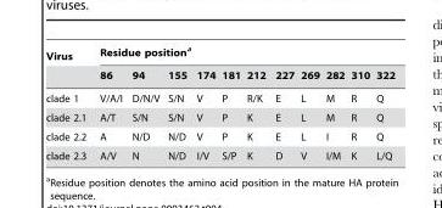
<table><thead><tr><td rowspan="2">Virus</td><td colspan="11">Residue position<sup>a</sup></td></tr><tr><td>86</td><td>94</td><td>155</td><td>174</td><td>181</td><td>212</td><td>227</td><td>269</td><td>282</td><td>310</td><td>322</td></tr></thead><tbody><tr><td>clade 1</td><td>V/A/I</td><td>D/N/V</td><td>S/N</td><td>V</td><td>P</td><td>R/K</td><td>E</td><td>L</td><td>M</td><td>R</td><td>Q</td></tr><tr><td>clade 2.1</td><td>A/T</td><td>S/N</td><td>S/N</td><td>V</td><td>P</td><td>K</td><td>E</td><td>L</td><td>M</td><td>R</td><td>Q</td></tr><tr><td>clade 2.2</td><td>A</td><td>N/D</td><td>N/D</td><td>V</td><td>P</td><td>K</td><td>E</td><td>L</td><td>I</td><td>R</td><td>Q</td></tr><tr><td>clade 2.3</td><td>A/V</td><td>N</td><td>N/D</td><td>I/V</td><td>S/P</td><td>K</td><td>D</td><td>V</td><td>I/M</td><td>K</td><td>L/Q</td></tr></tbody></table>